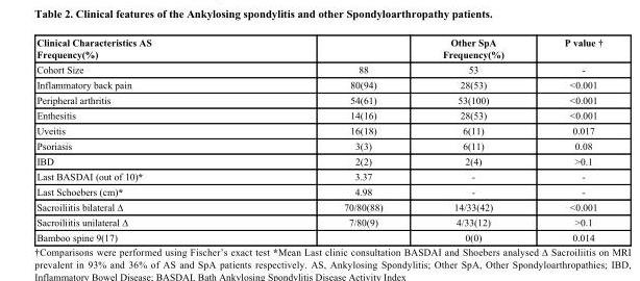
<table><thead><tr><td colspan="2">Clinical Characteristics AS Frequency(%)</td><td rowspan="2">Other SpA Frequency(%) 53</td><td rowspan="2">P value † -</td></tr><tr><td>Cohort Size</td><td>88</td></tr></thead><tbody><tr><td>Inflammatory back pain</td><td>80(94)</td><td>28(53)</td><td>&lt;0.001</td></tr><tr><td>Peripheral arthritis</td><td>54(61)</td><td>53(100)</td><td>&lt;0.001</td></tr><tr><td>Enthesitis</td><td>14(16)</td><td>28(53)</td><td>&lt;0.001</td></tr><tr><td>Uveitis</td><td>16(18)</td><td>6(11)</td><td>0.017</td></tr><tr><td>Psoriasis</td><td>3(3)</td><td>6(11)</td><td>0.08</td></tr><tr><td>IBD</td><td>2(2)</td><td>2(4)</td><td>&gt;0.1</td></tr><tr><td>Last BASDAI (out of 10)*</td><td>3.37</td><td>-</td><td>-</td></tr><tr><td>Last Schoebers (cm)*</td><td>4.98</td><td>-</td><td>-</td></tr><tr><td>Sacroiliitis bilateral ∆</td><td>70/80(88)</td><td>14/33(42)</td><td>&lt;0.001</td></tr><tr><td>Sacroiliitis unilateral ∆</td><td>7/80(9)</td><td>4/33(12)</td><td>&gt;0.1</td></tr><tr><td colspan="2">Bamboo spine 9(17)</td><td>0(0)</td><td>0.014</td></tr></tbody></table>